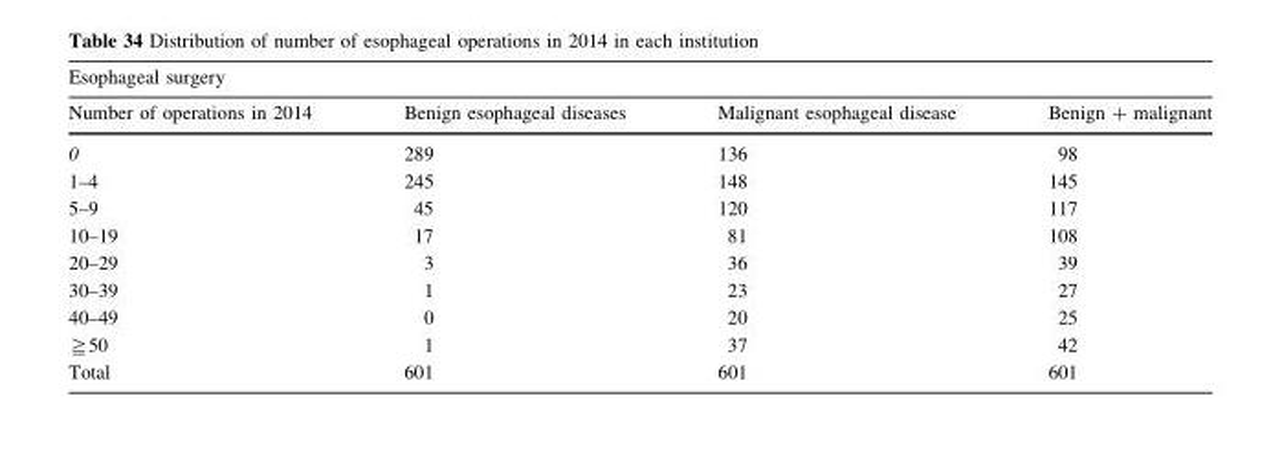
<table><thead><tr><td colspan="4">Esophageal surgery</td></tr><tr><td>Number of operations in 2014</td><td>Benign esophageal diseases</td><td>Malignant esophageal disease</td><td>Benign + malignant</td></tr></thead><tbody><tr><td>0</td><td>289</td><td>136</td><td>98</td></tr><tr><td>1–4</td><td>245</td><td>148</td><td>145</td></tr><tr><td>5–9</td><td>45</td><td>120</td><td>117</td></tr><tr><td>10–19</td><td>17</td><td>81</td><td>108</td></tr><tr><td>20–29</td><td>3</td><td>36</td><td>39</td></tr><tr><td>30–39</td><td>1</td><td>23</td><td>27</td></tr><tr><td>40–49</td><td>0</td><td>20</td><td>25</td></tr><tr><td>≧50</td><td>1</td><td>37</td><td>42</td></tr><tr><td>Total</td><td>601</td><td>601</td><td>601</td></tr></tbody></table>